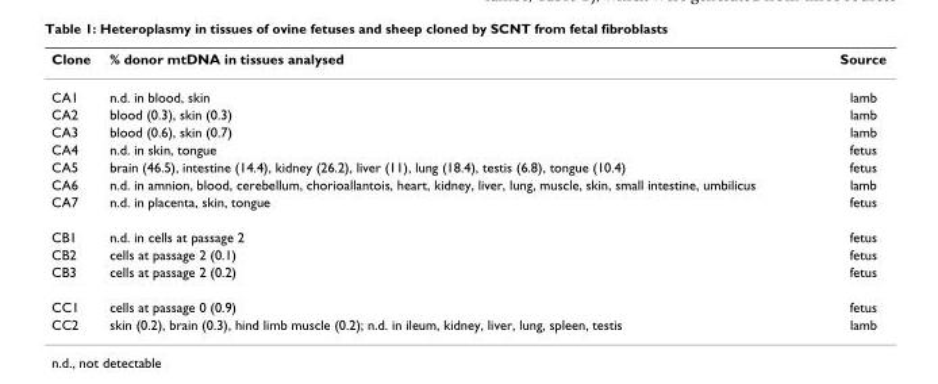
<table><thead><tr><td>Clone</td><td>% donor mtDNA in tissues analysed</td><td>Source</td></tr></thead><tbody><tr><td>CA1</td><td>n.d. in blood, skin</td><td>lamb</td></tr><tr><td>CA2</td><td>blood (0.3), skin (0.3)</td><td>lamb</td></tr><tr><td>CA3</td><td>blood (0.6), skin (0.7)</td><td>lamb</td></tr><tr><td>CA4</td><td>n.d. in skin, tongue</td><td>fetus</td></tr><tr><td>CA5</td><td>brain (46.5), intestine (14.4), kidney (26.2), liver (11), lung (18.4), testis (6.8), tongue (10.4)</td><td>fetus</td></tr><tr><td>CA6</td><td>n.d. in amnion, blood, cerebellum, chorioallantois, heart, kidney, liver, lung, muscle, skin, small intestine, umbilicus</td><td>lamb</td></tr><tr><td>CA7</td><td>n.d. in placenta, skin, tongue</td><td>fetus</td></tr><tr><td>CB1</td><td>n.d. in cells at passage 2</td><td>fetus</td></tr><tr><td>CB2</td><td>cells at passage 2 (0.1)</td><td>fetus</td></tr><tr><td>CB3</td><td>cells at passage 2 (0.2)</td><td>fetus</td></tr><tr><td>CC1</td><td>cells at passage 0 (0.9)</td><td>fetus</td></tr><tr><td>CC2</td><td>skin (0.2), brain (0.3), hind limb muscle (0.2); n.d. in ileum, kidney, liver, lung, spleen, testis</td><td>lamb</td></tr></tbody></table>